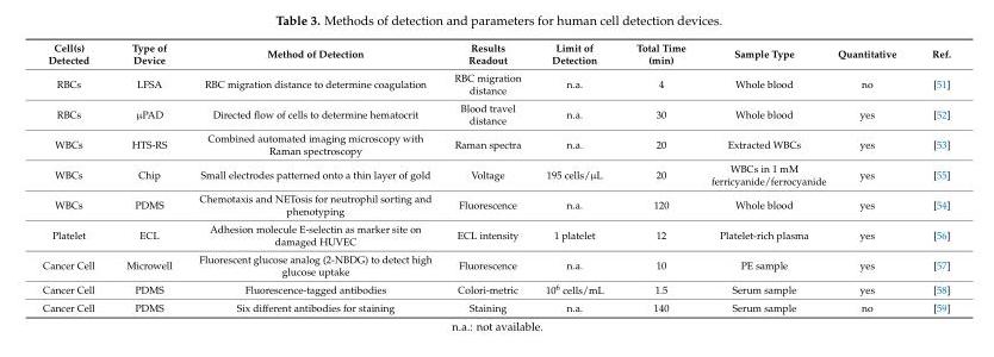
<table><thead><tr><td>Cell(s) Detected</td><td>Type of Device</td><td>Method of Detection</td><td>Results Readout</td><td>Limit of Detection</td><td>Total Time (min)</td><td>Sample Type</td><td>Quantitative</td><td>Ref.</td></tr></thead><tbody><tr><td>RBCs</td><td>LFSA</td><td>RBC migration distance to determine coagulation</td><td>RBC migration distance</td><td>n.a.</td><td>4</td><td>Whole blood</td><td>no</td><td>[51]</td></tr><tr><td>RBCs</td><td>µPAD</td><td>Directed flow of cells to determine hematocrit</td><td>Blood travel distance</td><td>n.a.</td><td>30</td><td>Whole blood</td><td>yes</td><td>[52]</td></tr><tr><td>WBCs</td><td>HTS-RS</td><td>Combined automated imaging microscopy with Raman spectroscopy</td><td>Raman spectra</td><td>n.a.</td><td>20</td><td>Extracted WBCs</td><td>yes</td><td>[53]</td></tr><tr><td>WBCs</td><td>Chip</td><td>Small electrodes patterned onto a thin layer of gold</td><td>Voltage</td><td>195 cells/µL</td><td>20</td><td>WBCs in 1 mM ferricyanide/ferrocyanide</td><td>yes</td><td>[55]</td></tr><tr><td>WBCs</td><td>PDMS</td><td>Chemotaxis and NETosis for neutrophil sorting and phenotyping</td><td>Fluorescence</td><td>n.a.</td><td>120</td><td>Whole blood</td><td>yes</td><td>[54]</td></tr><tr><td>Platelet</td><td>ECL</td><td>Adhesion molecule E-selectin as marker site on damaged HUVEC</td><td>ECL intensity</td><td>1 platelet</td><td>12</td><td>Platelet-rich plasma</td><td>yes</td><td>[56]</td></tr><tr><td>Cancer Cell</td><td>Microwell</td><td>Fluorescent glucose analog (2-NBDG) to detect high glucose uptake</td><td>Fluorescence</td><td>n.a.</td><td>10</td><td>PE sample</td><td>yes</td><td>[57]</td></tr><tr><td>Cancer Cell</td><td>PDMS</td><td>Fluorescence-tagged antibodies</td><td>Colori-metric</td><td>10<sup>6</sup> cells/mL</td><td>1.5</td><td>Serum sample</td><td>yes</td><td>[58]</td></tr><tr><td>Cancer Cell</td><td>PDMS</td><td>Six different antibodies for staining</td><td>Staining</td><td>n.a.</td><td>140</td><td>Serum sample</td><td>no</td><td>[59]</td></tr></tbody></table>